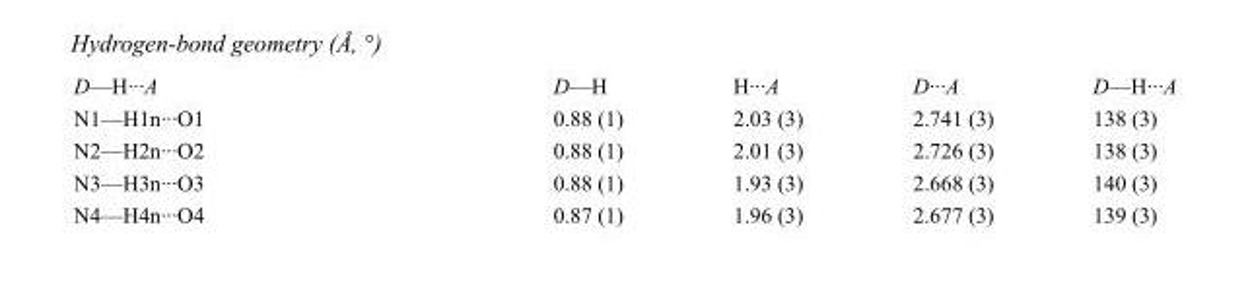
<table><tbody><tr><td>D—H···A</td><td>D—H</td><td>H···A</td><td>D···A</td><td>D—H···A</td></tr><tr><td>N1—H1n···O1</td><td>0.88 (1)</td><td>2.03 (3)</td><td>2.741 (3)</td><td>138 (3)</td></tr><tr><td>N2—H2n···O2</td><td>0.88 (1)</td><td>2.01 (3)</td><td>2.726 (3)</td><td>138 (3)</td></tr><tr><td>N3—H3n···O3</td><td>0.88 (1)</td><td>1.93 (3)</td><td>2.668 (3)</td><td>140 (3)</td></tr><tr><td>N4—H4n···O4</td><td>0.87 (1)</td><td>1.96 (3)</td><td>2.677 (3)</td><td>139 (3)</td></tr></tbody></table>